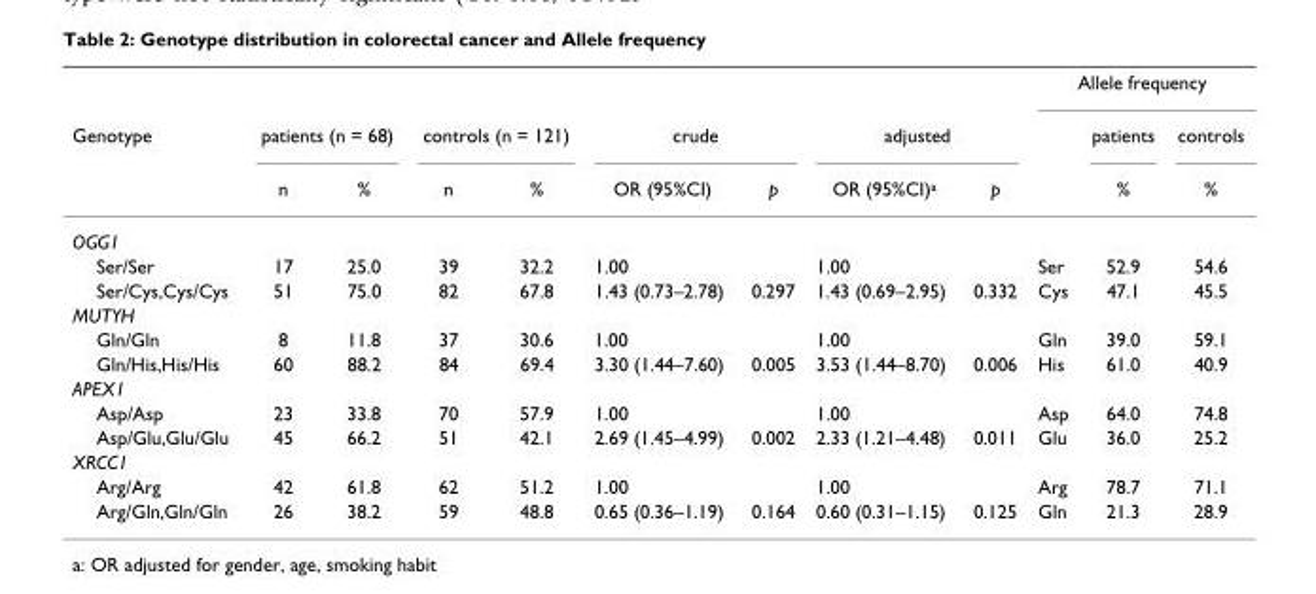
<table><thead><tr><td rowspan="3">Genotype</td><td></td><td></td><td></td><td></td><td></td><td></td><td></td><td></td><td colspan="3">Allele frequency</td></tr><tr><td colspan="2">patients (n = 68)</td><td colspan="2">controls (n = 121)</td><td colspan="2">crude</td><td colspan="2">adjusted</td><td rowspan="2"></td><td rowspan="2">patients %</td><td rowspan="2">controls %</td></tr><tr><td>n</td><td>%</td><td>n</td><td>%</td><td>OR (95%CI)</td><td>p</td><td>OR (95%CI)<sup>a</sup></td><td>p</td></tr></thead><tbody><tr><td colspan="12">OGG1</td></tr><tr><td>Ser/Ser</td><td>17</td><td>25.0</td><td>39</td><td>32.2</td><td>1.00</td><td></td><td>1.00</td><td></td><td>Ser</td><td>52.9</td><td>54.6</td></tr><tr><td>Ser/Cys,Cys/Cys</td><td>51</td><td>75.0</td><td>82</td><td>67.8</td><td>1.43 (0.73–2.78)</td><td>0.297</td><td>1.43 (0.69–2.95)</td><td>0.332</td><td>Cys</td><td>47.1</td><td>45.5</td></tr><tr><td colspan="12">MUTYH</td></tr><tr><td>Gln/Gln</td><td>8</td><td>11.8</td><td>37</td><td>30.6</td><td>1.00</td><td></td><td>1.00</td><td></td><td>Gln</td><td>39.0</td><td>59.1</td></tr><tr><td>Gln/His,His/His</td><td>60</td><td>88.2</td><td>84</td><td>69.4</td><td>3.30 (1.44–7.60)</td><td>0.005</td><td>3.53 (1.44–8.70)</td><td>0.006</td><td>His</td><td>61.0</td><td>40.9</td></tr><tr><td colspan="12">APEX1</td></tr><tr><td>Asp/Asp</td><td>23</td><td>33.8</td><td>70</td><td>57.9</td><td>1.00</td><td></td><td>1.00</td><td></td><td>Asp</td><td>64.0</td><td>74.8</td></tr><tr><td>Asp/Glu,Glu/Glu</td><td>45</td><td>66.2</td><td>51</td><td>42.1</td><td>2.69 (1.45–4.99)</td><td>0.002</td><td>2.33 (1.21–4.48)</td><td>0.011</td><td>Glu</td><td>36.0</td><td>25.2</td></tr><tr><td colspan="12">XRCC1</td></tr><tr><td>Arg/Arg</td><td>42</td><td>61.8</td><td>62</td><td>51.2</td><td>1.00</td><td></td><td>1.00</td><td></td><td>Arg</td><td>78.7</td><td>71.1</td></tr><tr><td>Arg/Gln,Gln/Gln</td><td>26</td><td>38.2</td><td>59</td><td>48.8</td><td>0.65 (0.36–1.19)</td><td>0.164</td><td>0.60 (0.31–1.15)</td><td>0.125</td><td>Gln</td><td>21.3</td><td>28.9</td></tr></tbody></table>